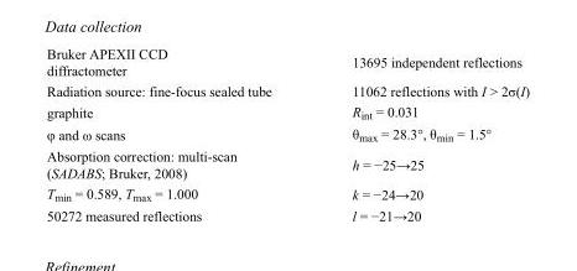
<table><tbody><tr><td>Bruker APEXII CCD diffractometer</td><td>13695 independent reflections</td></tr><tr><td>Radiation source: fine-focus sealed tube</td><td>11062 reflections with I &gt; 2σ(I)</td></tr><tr><td>graphite</td><td>R<sub>int</sub> = 0.031</td></tr><tr><td>φ and ω scans</td><td>θ<sub>max</sub> = 28.3°, θ<sub>min</sub> = 1.5°</td></tr><tr><td>Absorption correction: multi-scan (SADABS; Bruker, 2008)</td><td>h = −25→25</td></tr><tr><td>T<sub>min</sub> = 0.589, T<sub>max</sub> = 1.000</td><td>k = −24→20</td></tr><tr><td>50272 measured reflections</td><td>l = −21→20</td></tr></tbody></table>